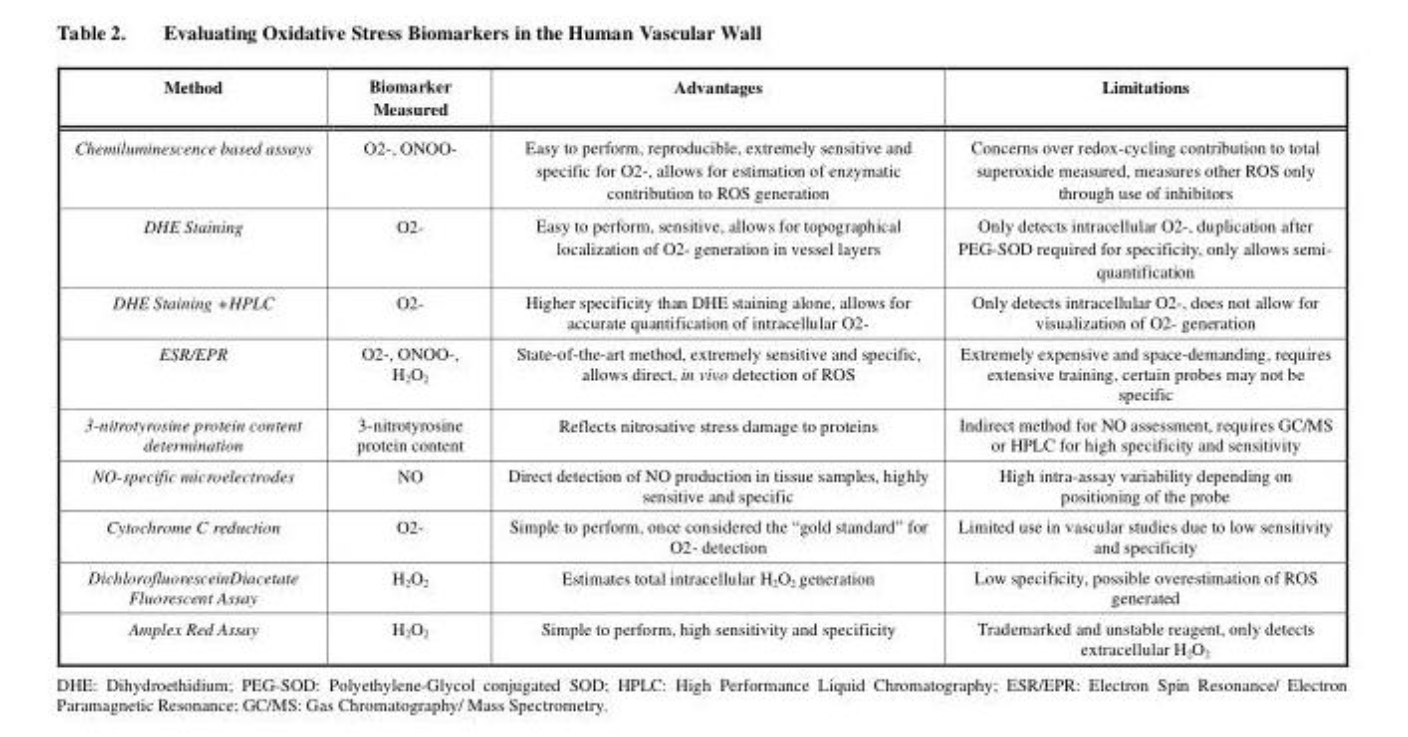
<table><thead><tr><td>Method</td><td>Biomarker Measured</td><td>Advantages</td><td>Limitations</td></tr></thead><tbody><tr><td>Chemiluminescence based assays</td><td>O2-, ONOO-</td><td>Easy to perform, reproducible, extremely sensitive and specific for O2-, allows for estimation of enzymatic contribution to ROS generation</td><td>Concerns over redox-cycling contribution to total superoxide measured, measures other ROS only through use of inhibitors</td></tr><tr><td>DHE Staining</td><td>O2-</td><td>Easy to perform, sensitive, allows for topographical localization of O2- generation in vessel layers</td><td>Only detects intracellular O2-, duplication after PEG-SOD required for specificity, only allows semi- quantification</td></tr><tr><td>DHE Staining +HPLC</td><td>O2-</td><td>Higher specificity than DHE staining alone, allows for accurate quantification of intracellular O2-</td><td>Only detects intracellular O2-, does not allow for visualization of O2- generation</td></tr><tr><td>ESR/EPR</td><td>O2-, ONOO-, H<sub>2</sub>O<sub>2</sub></td><td>State-of-the-art method, extremely sensitive and specific, allows direct, in vivo detection of ROS</td><td>Extremely expensive and space-demanding, requires extensive training, certain probes may not be specific</td></tr><tr><td>3-nitrotyrosine protein content determination</td><td>3-nitrotyrosine protein content</td><td>Reflects nitrosative stress damage to proteins</td><td>Indirect method for NO assessment, requires GC/MS or HPLC for high specificity and sensitivity</td></tr><tr><td>NO-specific microelectrodes</td><td>NO</td><td>Direct detection of NO production in tissue samples, highly sensitive and specific</td><td>High intra-assay variability depending on positioning of the probe</td></tr><tr><td>Cytochrome C reduction</td><td>O2-</td><td>Simple to perform, once considered the “gold standard” for O2- detection</td><td>Limited use in vascular studies due to low sensitivity and specificity</td></tr><tr><td>DichlorofluoresceinDiacetate Fluorescent Assay</td><td>H<sub>2</sub>O<sub>2</sub></td><td>Estimates total intracellular H<sub>2</sub>O<sub>2</sub> generation</td><td>Low specificity, possible overestimation of ROS generated</td></tr><tr><td>Amplex Red Assay</td><td>H<sub>2</sub>O<sub>2</sub></td><td>Simple to perform, high sensitivity and specificity</td><td>Trademarked and unstable reagent, only detects extracellular H<sub>2</sub>O<sub>2</sub></td></tr></tbody></table>